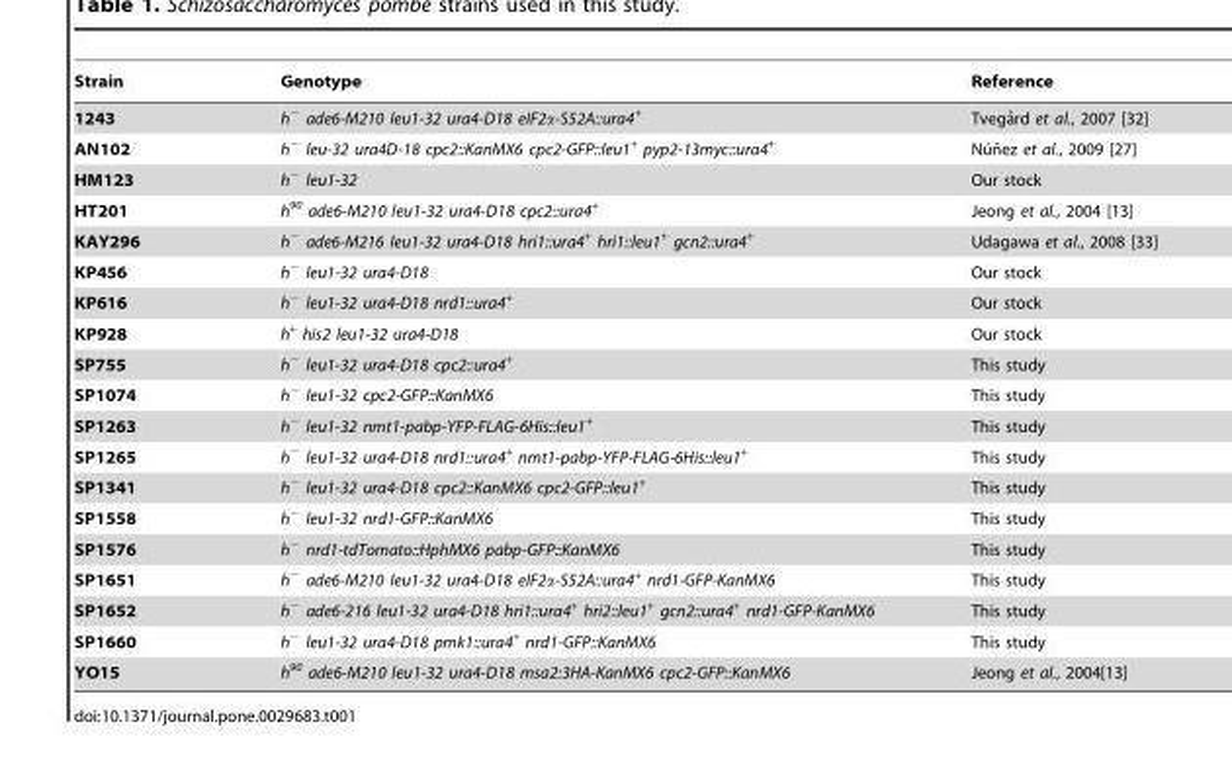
<table><thead><tr><td>Strain</td><td>Genotype</td><td>Reference</td></tr></thead><tbody><tr><td>1243</td><td>h<sup>−</sup> ade6-M210 leu1-32 ura4-D18 eIF2α-S52A::ura4<sup>+</sup></td><td>Tvega˚rd et al., 2007 [32]</td></tr><tr><td>AN102</td><td>h<sup>−</sup> leu-32 ura4D-18 cpc2::KanMX6 cpc2-GFP::leu1<sup>+</sup> pyp2-13myc::ura4<sup>+</sup></td><td>Nu´n˜ez et al., 2009 [27]</td></tr><tr><td>HM123</td><td>h<sup>−</sup> leu1-32</td><td>Our stock</td></tr><tr><td>HT201</td><td>h<sup>90</sup> ade6-M210 leu1-32 ura4-D18 cpc2::ura4<sup>+</sup></td><td>Jeong et al., 2004 [13]</td></tr><tr><td>KAY296</td><td>h<sup>−</sup> ade6-M216 leu1-32 ura4-D18 hri1::ura4<sup>+</sup> hri1::leu1<sup>+</sup> gcn2::ura4<sup>+</sup></td><td>Udagawa et al., 2008 [33]</td></tr><tr><td>KP456</td><td>h<sup>−</sup> leu1-32 ura4-D18</td><td>Our stock</td></tr><tr><td>KP616</td><td>h<sup>−</sup> leu1-32 ura4-D18 nrd1::ura4<sup>+</sup></td><td>Our stock</td></tr><tr><td>KP928</td><td>h<sup>+</sup> his2 leu1-32 ura4-D18</td><td>Our stock</td></tr><tr><td>SP755</td><td>h<sup>−</sup> leu1-32 ura4-D18 cpc2::ura4<sup>+</sup></td><td>This study</td></tr><tr><td>SP1074</td><td>h<sup>−</sup> leu1-32 cpc2-GFP::KanMX6</td><td>This study</td></tr><tr><td>SP1263</td><td>h<sup>−</sup> leu1-32 nmt1-pabp-YFP-FLAG-6His::leu1<sup>+</sup></td><td>This study</td></tr><tr><td>SP1265</td><td>h<sup>−</sup> leu1-32 ura4-D18 nrd1::ura4<sup>+</sup> nmt1-pabp-YFP-FLAG-6His::leu1<sup>+</sup></td><td>This study</td></tr><tr><td>SP1341</td><td>h<sup>−</sup> leu1-32 ura4-D18 cpc2::KanMX6 cpc2-GFP::leu1<sup>+</sup></td><td>This study</td></tr><tr><td>SP1558</td><td>h<sup>−</sup> leu1-32 nrd1-GFP::KanMX6</td><td>This study</td></tr><tr><td>SP1576</td><td>h<sup>−</sup> nrd1-tdTomato::HphMX6 pabp-GFP::KanMX6</td><td>This study</td></tr><tr><td>SP1651</td><td>h<sup>−</sup> ade6-M210 leu1-32 ura4-D18 eIF2α-S52A::ura4<sup>+</sup> nrd1-GFP-KanMX6</td><td>This study</td></tr><tr><td>SP1652</td><td>h<sup>−</sup> ade6-216 leu1-32 ura4-D18 hri1::ura4<sup>+</sup> hri2::leu1<sup>+</sup> gcn2::ura4<sup>+</sup> nrd1-GFP-KanMX6</td><td>This study</td></tr><tr><td>SP1660</td><td>h<sup>−</sup> leu1-32 ura4-D18 pmk1::ura4<sup>+</sup> nrd1-GFP::KanMX6</td><td>This study</td></tr><tr><td>YO15</td><td>h<sup>90</sup> ade6-M210 leu1-32 ura4-D18 msa2:3HA-KanMX6 cpc2-GFP::KanMX6</td><td>Jeong et al., 2004[13]</td></tr></tbody></table>